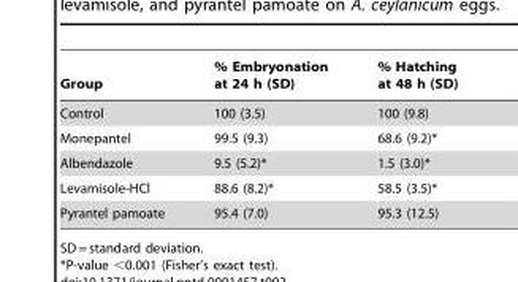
<table><thead><tr><td>Group</td><td>% Embryonation at 24 h (SD)</td><td>% Hatching at 48 h (SD)</td></tr></thead><tbody><tr><td>Control</td><td>100 (3.5)</td><td>100 (9.8)</td></tr><tr><td>Monepantel</td><td>99.5 (9.3)</td><td>68.6 (9.2)*</td></tr><tr><td>Albendazole</td><td>9.5 (5.2)*</td><td>1.5 (3.0)*</td></tr><tr><td>Levamisole-HCl</td><td>88.6 (8.2)*</td><td>58.5 (3.5)*</td></tr><tr><td>Pyrantel pamoate</td><td>95.4 (7.0)</td><td>95.3 (12.5)</td></tr></tbody></table>